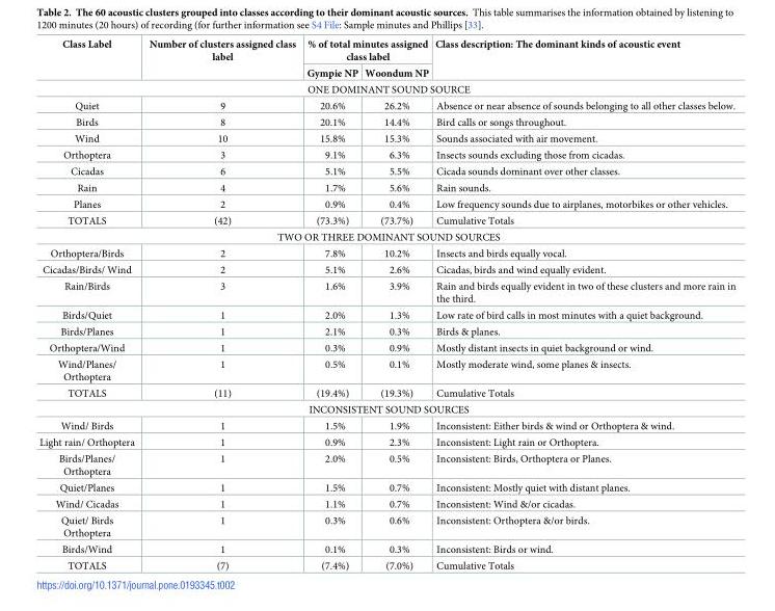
<table><thead><tr><td rowspan="2">Class Label</td><td rowspan="2">Number of clusters assigned class label</td><td colspan="2">% of total minutes assigned class label</td><td rowspan="2">Class description: The dominant kinds of acoustic event</td></tr><tr><td>Gympie NP</td><td>Woondum NP</td></tr></thead><tbody><tr><td colspan="5">ONE DOMINANT SOUND SOURCE</td></tr><tr><td>Quiet</td><td>9</td><td>20.6%</td><td>26.2%</td><td>Absence or near absence of sounds belonging to all other classes below.</td></tr><tr><td>Birds</td><td>8</td><td>20.1%</td><td>14.4%</td><td>Bird calls or songs throughout.</td></tr><tr><td>Wind</td><td>10</td><td>15.8%</td><td>15.3%</td><td>Sounds associated with air movement.</td></tr><tr><td>Orthoptera</td><td>3</td><td>9.1%</td><td>6.3%</td><td>Insects sounds excluding those from cicadas.</td></tr><tr><td>Cicadas</td><td>6</td><td>5.1%</td><td>5.5%</td><td>Cicada sounds dominant over other classes.</td></tr><tr><td>Rain</td><td>4</td><td>1.7%</td><td>5.6%</td><td>Rain sounds.</td></tr><tr><td>Planes</td><td>2</td><td>0.9%</td><td>0.4%</td><td>Low frequency sounds due to airplanes, motorbikes or other vehicles.</td></tr><tr><td>TOTALS</td><td>(42)</td><td>(73.3%)</td><td>(73.7%)</td><td>Cumulative Totals</td></tr><tr><td colspan="5">TWO OR THREE DOMINANT SOUND SOURCES</td></tr><tr><td>Orthoptera/Birds</td><td>2</td><td>7.8%</td><td>10.2%</td><td>Insects and birds equally vocal.</td></tr><tr><td>Cicadas/Birds/ Wind</td><td>2</td><td>5.1%</td><td>2.6%</td><td>Cicadas, birds and wind equally evident.</td></tr><tr><td>Rain/Birds</td><td>3</td><td>1.6%</td><td>3.9%</td><td>Rain and birds equally evident in two of these clusters and more rain in the third.</td></tr><tr><td>Birds/Quiet</td><td>1</td><td>2.0%</td><td>1.3%</td><td>Low rate of bird calls in most minutes with a quiet background.</td></tr><tr><td>Birds/Planes</td><td>1</td><td>2.1%</td><td>0.3%</td><td>Birds &amp; planes.</td></tr><tr><td>Orthoptera/Wind</td><td>1</td><td>0.3%</td><td>0.9%</td><td>Mostly distant insects in quiet background or wind.</td></tr><tr><td>Wind/Planes/ Orthoptera</td><td>1</td><td>0.5%</td><td>0.1%</td><td>Mostly moderate wind, some planes &amp; insects.</td></tr><tr><td>TOTALS</td><td>(11)</td><td>(19.4%)</td><td>(19.3%)</td><td>Cumulative Totals</td></tr><tr><td colspan="5">INCONSISTENT SOUND SOURCES</td></tr><tr><td>Wind/ Birds</td><td>1</td><td>1.5%</td><td>1.9%</td><td>Inconsistent: Either birds &amp; wind or Orthoptera &amp; wind.</td></tr><tr><td>Light rain/ Orthoptera</td><td>1</td><td>0.9%</td><td>2.3%</td><td>Inconsistent: Light rain or Orthoptera.</td></tr><tr><td>Birds/Planes/ Orthoptera</td><td>1</td><td>2.0%</td><td>0.5%</td><td>Inconsistent: Birds, Orthoptera or Planes.</td></tr><tr><td>Quiet/Planes</td><td>1</td><td>1.5%</td><td>0.7%</td><td>Inconsistent: Mostly quiet with distant planes.</td></tr><tr><td>Wind/ Cicadas</td><td>1</td><td>1.1%</td><td>0.7%</td><td>Inconsistent: Wind &amp;/or cicadas.</td></tr><tr><td>Quiet/ Birds Orthoptera</td><td>1</td><td>0.3%</td><td>0.6%</td><td>Inconsistent: Orthoptera &amp;/or birds.</td></tr><tr><td>Birds/Wind</td><td>1</td><td>0.1%</td><td>0.3%</td><td>Inconsistent: Birds or wind.</td></tr><tr><td>TOTALS</td><td>(7)</td><td>(7.4%)</td><td>(7.0%)</td><td>Cumulative Totals</td></tr></tbody></table>